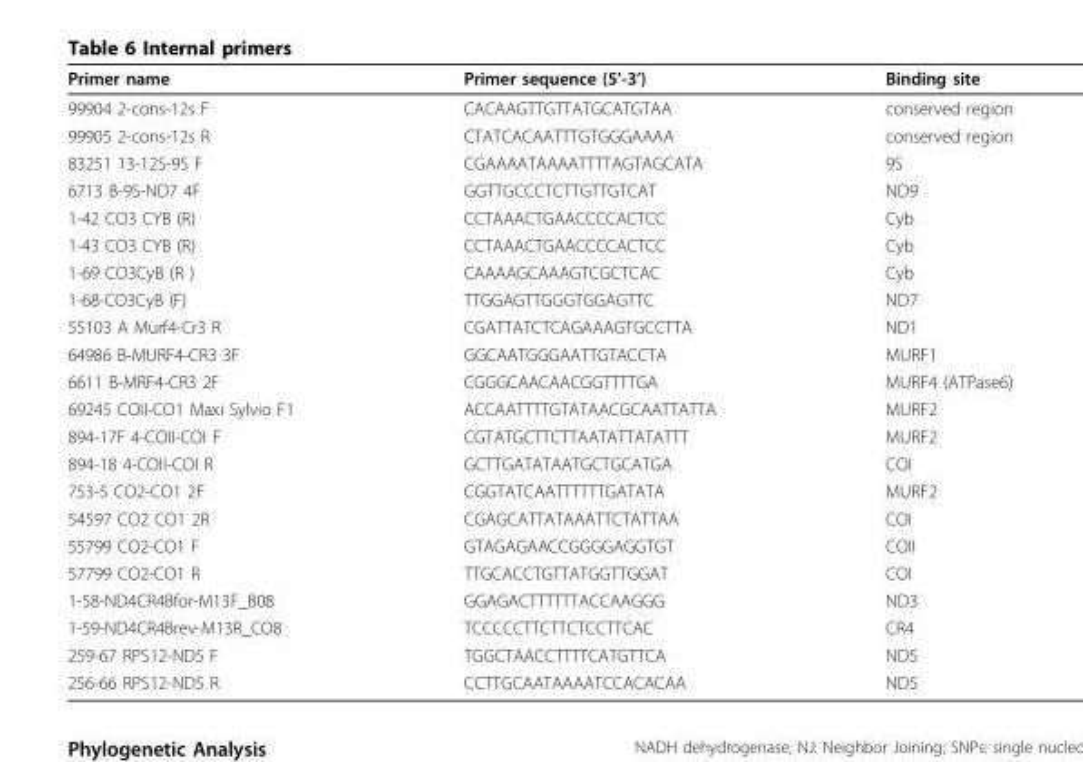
<table><thead><tr><td>Primer name</td><td>Primer sequence (5’-3’)</td><td>Binding site</td></tr></thead><tbody><tr><td>99904 2-cons-12s F</td><td>CACAAGTTGTTATGCATGTAA</td><td>conserved region</td></tr><tr><td>99905 2-cons-12s R</td><td>CTATCACAATTTGTGGGAAAA</td><td>conserved region</td></tr><tr><td>83251 13-12S-9S F</td><td>CGAAAATAAAATTTTAGTAGCATA</td><td>9S</td></tr><tr><td>6713 B-9S-ND7 4F</td><td>GGTTGCCCTCTTGTTGTCAT</td><td>ND9</td></tr><tr><td>1-42 CO3 CYB (R)</td><td>CCTAAACTGAACCCCACTCC</td><td>Cyb</td></tr><tr><td>1-43 CO3 CYB (R)</td><td>CCTAAACTGAACCCCACTCC</td><td>Cyb</td></tr><tr><td>1-69 CO3CyB (R )</td><td>CAAAAGCAAAGTCGCTCAC</td><td>Cyb</td></tr><tr><td>1-68-CO3CyB (F)</td><td>TTGGAGTTGGGTGGAGTTC</td><td>ND7</td></tr><tr><td>55103 A Murf4-Cr3 R</td><td>CGATTATCTCAGAAAGTGCCTTA</td><td>ND1</td></tr><tr><td>64986 B-MURF4-CR3 3F</td><td>GGCAATGGGAATTGTACCTA</td><td>MURF1</td></tr><tr><td>6611 B-MRF4-CR3 2F</td><td>CGGGCAACAACGGTTTTGA</td><td>MURF4 (ATPase6)</td></tr><tr><td>69245 COII-CO1 Maxi Sylvio F1</td><td>ACCAATTTTGTATAACGCAATTATTA</td><td>MURF2</td></tr><tr><td>894-17F 4-COII-COI F</td><td>CGTATGCTTCTTAATATTATATTT</td><td>MURF2</td></tr><tr><td>894-18 4-COII-COI R</td><td>GCTTGATATAATGCTGCATGA</td><td>COI</td></tr><tr><td>753-5 CO2-CO1 2F</td><td>CGGTATCAATTTTTTGATATA</td><td>MURF2</td></tr><tr><td>54597 CO2 CO1 2R</td><td>CGAGCATTATAAATTCTATTAA</td><td>COI</td></tr><tr><td>55799 CO2-CO1 F</td><td>GTAGAGAACCGGGGAGGTGT</td><td>COII</td></tr><tr><td>57799 CO2-CO1 R</td><td>TTGCACCTGTTATGGTTGGAT</td><td>COI</td></tr><tr><td>1-58-ND4CR4Bfor-M13F_B08</td><td>GGAGACTTTTTTACCAAGGG</td><td>ND3</td></tr><tr><td>1-59-ND4CR4Brev-M13R_CO8</td><td>TCCCCCTTCTTCTCCTTCAC</td><td>CR4</td></tr><tr><td>259-67 RPS12-ND5 F</td><td>TGGCTAACCTTTTCATGTTCA</td><td>ND5</td></tr><tr><td>256-66 RPS12-ND5 R</td><td>CCTTGCAATAAAATCCACACAA</td><td>ND5</td></tr></tbody></table>